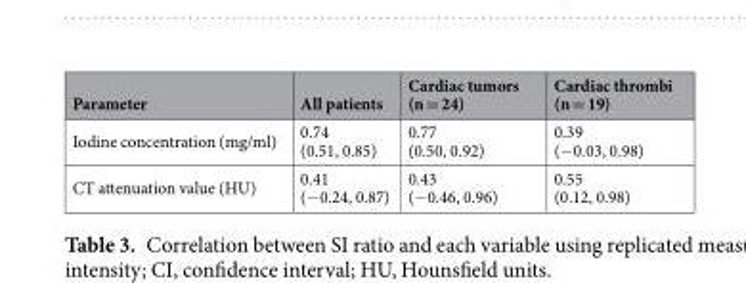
<table><thead><tr><td>Parameter</td><td>All patients</td><td>Cardiac tumors (n = 24)</td><td>Cardiac thrombi (n = 19)</td></tr></thead><tbody><tr><td>Iodine concentration (mg/ml)</td><td>0.74 (0.51, 0.85)</td><td>0.77 (0.50, 0.92)</td><td>0.39 (−0.03, 0.98)</td></tr><tr><td>CT attenuation value (HU)</td><td>0.41 (−0.24, 0.87)</td><td>0.43 (−0.46, 0.96)</td><td>0.55 (0.12, 0.98)</td></tr></tbody></table>